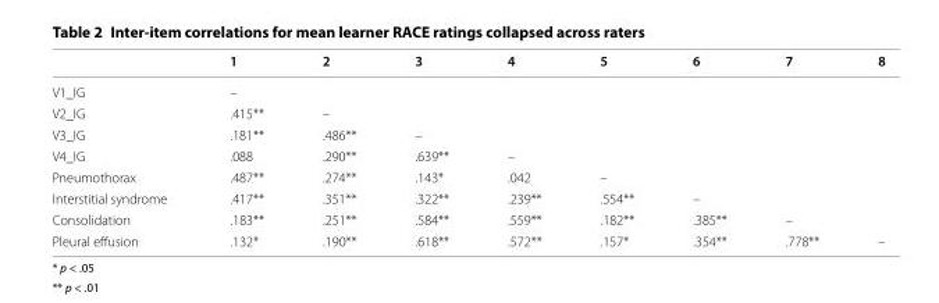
<table><thead><tr><td></td><td>1</td><td>2</td><td>3</td><td>4</td><td>5</td><td>6</td><td>7</td><td>8</td></tr></thead><tbody><tr><td>V1_IG</td><td>–</td><td></td><td></td><td></td><td></td><td></td><td></td><td></td></tr><tr><td>V2_IG</td><td>.415**</td><td>–</td><td></td><td></td><td></td><td></td><td></td><td></td></tr><tr><td>V3_IG</td><td>.181**</td><td>.486**</td><td>–</td><td></td><td></td><td></td><td></td><td></td></tr><tr><td>V4_IG</td><td>.088</td><td>.290**</td><td>.639**</td><td>–</td><td></td><td></td><td></td><td></td></tr><tr><td>Pneumothorax</td><td>.487**</td><td>.274**</td><td>.143*</td><td>.042</td><td>–</td><td></td><td></td><td></td></tr><tr><td>Interstitial syndrome</td><td>.417**</td><td>.351**</td><td>.322**</td><td>.239**</td><td>.554**</td><td>–</td><td></td><td></td></tr><tr><td>Consolidation</td><td>.183**</td><td>.251**</td><td>.584**</td><td>.559**</td><td>.182**</td><td>.385**</td><td>–</td><td></td></tr><tr><td>Pleural effusion</td><td>.132*</td><td>.190**</td><td>.618**</td><td>.572**</td><td>.157*</td><td>.354**</td><td>.778**</td><td>–</td></tr></tbody></table>